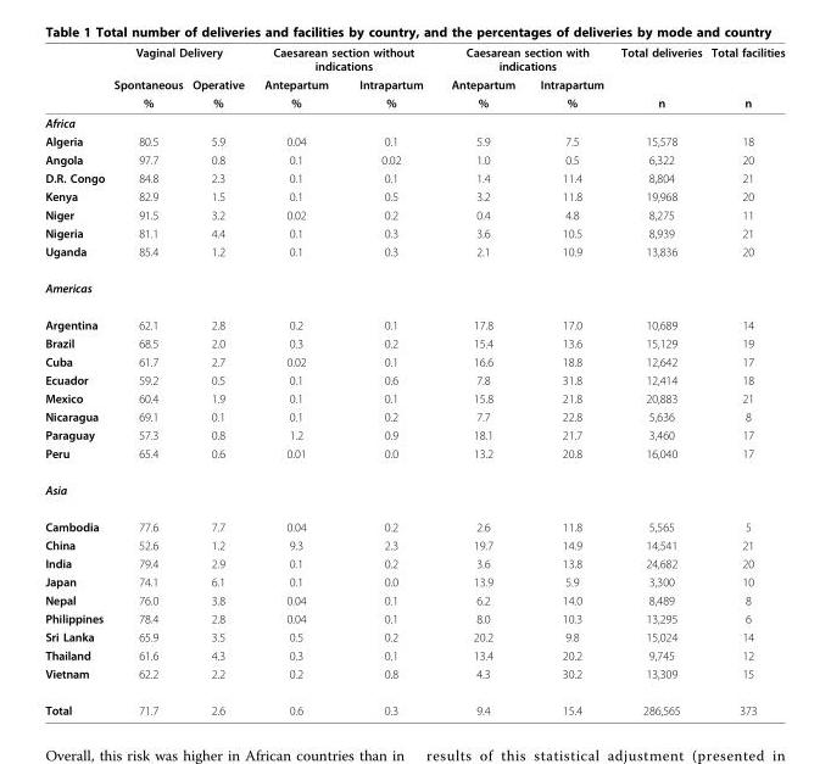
<table><thead><tr><td rowspan="3"></td><td colspan="2">Vaginal Delivery</td><td colspan="2">Caesarean section without indications</td><td colspan="2">Caesarean section with indications</td><td rowspan="3">Total deliveries n</td><td rowspan="3">Total facilities n</td></tr><tr><td rowspan="2">Spontaneous %</td><td rowspan="2">Operative %</td><td rowspan="2">Antepartum %</td><td rowspan="2">Intrapartum %</td><td rowspan="2">Antepartum %</td><td rowspan="2">Intrapartum %</td></tr><tr></tr></thead><tbody><tr><td colspan="9">Africa</td></tr><tr><td>Algeria</td><td>80.5</td><td>5.9</td><td>0.04</td><td>0.1</td><td>5.9</td><td>7.5</td><td>15,578</td><td>18</td></tr><tr><td>Angola</td><td>97.7</td><td>0.8</td><td>0.1</td><td>0.02</td><td>1.0</td><td>0.5</td><td>6,322</td><td>20</td></tr><tr><td>D.R. Congo</td><td>84.8</td><td>2.3</td><td>0.1</td><td>0.1</td><td>1.4</td><td>11.4</td><td>8,804</td><td>21</td></tr><tr><td>Kenya</td><td>82.9</td><td>1.5</td><td>0.1</td><td>0.5</td><td>3.2</td><td>11.8</td><td>19,968</td><td>20</td></tr><tr><td>Niger</td><td>91.5</td><td>3.2</td><td>0.02</td><td>0.2</td><td>0.4</td><td>4.8</td><td>8,275</td><td>11</td></tr><tr><td>Nigeria</td><td>81.1</td><td>4.4</td><td>0.1</td><td>0.3</td><td>3.6</td><td>10.5</td><td>8,939</td><td>21</td></tr><tr><td>Uganda</td><td>85.4</td><td>1.2</td><td>0.1</td><td>0.3</td><td>2.1</td><td>10.9</td><td>13,836</td><td>20</td></tr><tr><td colspan="9">Americas</td></tr><tr><td>Argentina</td><td>62.1</td><td>2.8</td><td>0.2</td><td>0.1</td><td>17.8</td><td>17.0</td><td>10,689</td><td>14</td></tr><tr><td>Brazil</td><td>68.5</td><td>2.0</td><td>0.3</td><td>0.2</td><td>15.4</td><td>13.6</td><td>15,129</td><td>19</td></tr><tr><td>Cuba</td><td>61.7</td><td>2.7</td><td>0.02</td><td>0.1</td><td>16.6</td><td>18.8</td><td>12,642</td><td>17</td></tr><tr><td>Ecuador</td><td>59.2</td><td>0.5</td><td>0.1</td><td>0.6</td><td>7.8</td><td>31.8</td><td>12,414</td><td>18</td></tr><tr><td>Mexico</td><td>60.4</td><td>1.9</td><td>0.1</td><td>0.1</td><td>15.8</td><td>21.8</td><td>20,883</td><td>21</td></tr><tr><td>Nicaragua</td><td>69.1</td><td>0.1</td><td>0.1</td><td>0.2</td><td>7.7</td><td>22.8</td><td>5,636</td><td>8</td></tr><tr><td>Paraguay</td><td>57.3</td><td>0.8</td><td>1.2</td><td>0.9</td><td>18.1</td><td>21.7</td><td>3,460</td><td>17</td></tr><tr><td>Peru</td><td>65.4</td><td>0.6</td><td>0.01</td><td>0.0</td><td>13.2</td><td>20.8</td><td>16,040</td><td>17</td></tr><tr><td colspan="9">Asia</td></tr><tr><td>Cambodia</td><td>77.6</td><td>7.7</td><td>0.04</td><td>0.2</td><td>2.6</td><td>11.8</td><td>5,565</td><td>5</td></tr><tr><td>China</td><td>52.6</td><td>1.2</td><td>9.3</td><td>2.3</td><td>19.7</td><td>14.9</td><td>14,541</td><td>21</td></tr><tr><td>India</td><td>79.4</td><td>2.9</td><td>0.1</td><td>0.2</td><td>3.6</td><td>13.8</td><td>24,682</td><td>20</td></tr><tr><td>Japan</td><td>74.1</td><td>6.1</td><td>0.1</td><td>0.0</td><td>13.9</td><td>5.9</td><td>3,300</td><td>10</td></tr><tr><td>Nepal</td><td>76.0</td><td>3.8</td><td>0.04</td><td>0.1</td><td>6.2</td><td>14.0</td><td>8,489</td><td>8</td></tr><tr><td>Philippines</td><td>78.4</td><td>2.8</td><td>0.04</td><td>0.1</td><td>8.0</td><td>10.3</td><td>13,295</td><td>6</td></tr><tr><td>Sri Lanka</td><td>65.9</td><td>3.5</td><td>0.5</td><td>0.2</td><td>20.2</td><td>9.8</td><td>15,024</td><td>14</td></tr><tr><td>Thailand</td><td>61.6</td><td>4.3</td><td>0.3</td><td>0.1</td><td>13.4</td><td>20.2</td><td>9,745</td><td>12</td></tr><tr><td>Vietnam</td><td>62.2</td><td>2.2</td><td>0.2</td><td>0.8</td><td>4.3</td><td>30.2</td><td>13,309</td><td>15</td></tr><tr><td>Total</td><td>71.7</td><td>2.6</td><td>0.6</td><td>0.3</td><td>9.4</td><td>15.4</td><td>286,565</td><td>373</td></tr></tbody></table>